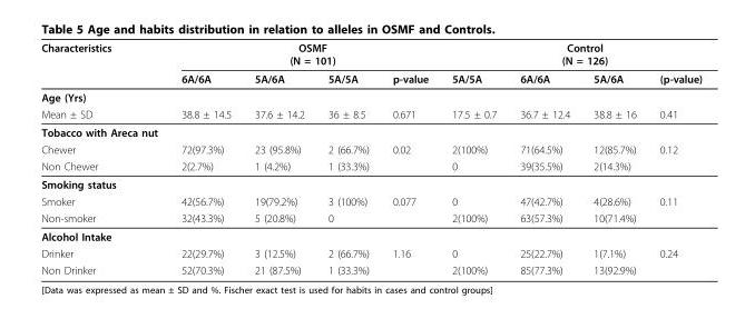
<table><thead><tr><td rowspan="2">Characteristics</td><td colspan="4">OSMF (N = 101)</td><td colspan="4">Control (N = 126)</td></tr><tr><td>6A/6A</td><td>5A/6A</td><td>5A/5A</td><td>p-value</td><td>5A/5A</td><td>6A/6A</td><td>5A/6A</td><td>(p-value)</td></tr></thead><tbody><tr><td colspan="9">Age (Yrs)</td></tr><tr><td>Mean ± SD</td><td>38.8 ± 14.5</td><td>37.6 ± 14.2</td><td>36 ± 8.5</td><td>0.671</td><td>17.5 ± 0.7</td><td>36.7 ± 12.4</td><td>38.8 ± 16</td><td>0.41</td></tr><tr><td colspan="9">Tobacco with Areca nut</td></tr><tr><td>Chewer</td><td>72(97.3%)</td><td>23 (95.8%)</td><td>2 (66.7%)</td><td>0.02</td><td>2(100%)</td><td>71(64.5%)</td><td>12(85.7%)</td><td>0.12</td></tr><tr><td>Non Chewer</td><td>2(2.7%)</td><td>1 (4.2%)</td><td>1 (33.3%)</td><td></td><td>0</td><td>39(35.5%)</td><td>2(14.3%)</td><td></td></tr><tr><td colspan="9">Smoking status</td></tr><tr><td>Smoker</td><td>42(56.7%)</td><td>19(79.2%)</td><td>3 (100%)</td><td>0.077</td><td>0</td><td>47(42.7%)</td><td>4(28.6%)</td><td>0.11</td></tr><tr><td>Non-smoker</td><td>32(43.3%)</td><td>5 (20.8%)</td><td>0</td><td></td><td>2(100%)</td><td>63(57.3%)</td><td>10(71.4%)</td><td></td></tr><tr><td colspan="9">Alcohol Intake</td></tr><tr><td>Drinker</td><td>22(29.7%)</td><td>3 (12.5%)</td><td>2 (66.7%)</td><td>1.16</td><td>0</td><td>25(22.7%)</td><td>1(7.1%)</td><td>0.24</td></tr><tr><td>Non Drinker</td><td>52(70.3%)</td><td>21 (87.5%)</td><td>1 (33.3%)</td><td></td><td>2(100%)</td><td>85(77.3%)</td><td>13(92.9%)</td><td></td></tr></tbody></table>